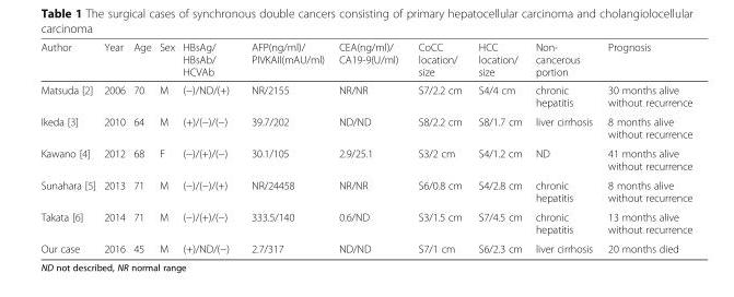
<table><thead><tr><td>Author</td><td>Year</td><td>Age</td><td>Sex</td><td>HBsAg/ HBsAb/ HCVAb</td><td>AFP(ng/ml)/ PIVKAII(mAU/ml)</td><td>CEA(ng/ml)/ CA19-9(U/ml)</td><td>CoCC location/ size</td><td>HCC location/ size</td><td>Non- cancerous portion</td><td>Prognosis</td></tr></thead><tbody><tr><td>Matsuda [2]</td><td>2006</td><td>70</td><td>M</td><td>(−)/ND/(+)</td><td>NR/2155</td><td>NR/NR</td><td>S7/2.2 cm</td><td>S4/4 cm</td><td>chronic hepatitis</td><td>30 months alive without recurrence</td></tr><tr><td>Ikeda [3]</td><td>2010</td><td>64</td><td>M</td><td>(+)/(−)/(−)</td><td>39.7/202</td><td>ND/ND</td><td>S8/2.2 cm</td><td>S8/1.7 cm</td><td>liver cirrhosis</td><td>8 months alive without recurrence</td></tr><tr><td>Kawano [4]</td><td>2012</td><td>68</td><td>F</td><td>(−)/(+)/(−)</td><td>30.1/105</td><td>2.9/25.1</td><td>S3/2 cm</td><td>S4/1.2 cm</td><td>ND</td><td>41 months alive without recurrence</td></tr><tr><td>Sunahara [5]</td><td>2013</td><td>71</td><td>M</td><td>(−)/(−)/(+)</td><td>NR/24458</td><td>NR/NR</td><td>S6/0.8 cm</td><td>S4/2.8 cm</td><td>chronic hepatitis</td><td>8 months alive without recurrence</td></tr><tr><td>Takata [6]</td><td>2014</td><td>71</td><td>M</td><td>(−)/(+)/(−)</td><td>333.5/140</td><td>0.6/ND</td><td>S3/1.5 cm</td><td>S7/4.5 cm</td><td>chronic hepatitis</td><td>13 months alive without recurrence</td></tr><tr><td>Our case</td><td>2016</td><td>45</td><td>M</td><td>(+)/ND/(−)</td><td>2.7/317</td><td>ND/ND</td><td>S7/1 cm</td><td>S6/2.3 cm</td><td>liver cirrhosis</td><td>20 months died</td></tr></tbody></table>